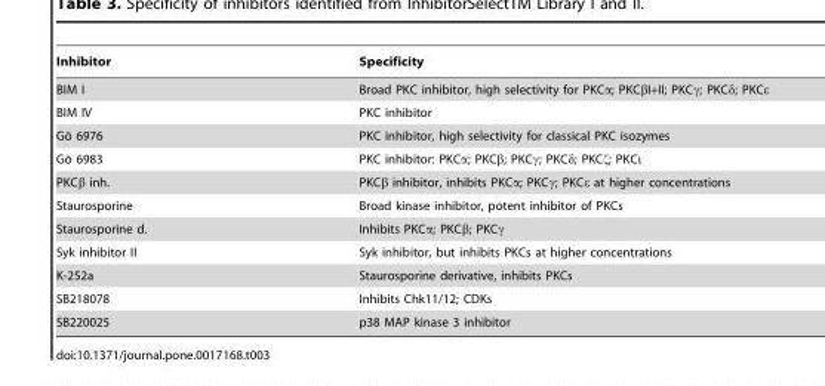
<table><thead><tr><td>Inhibitor</td><td>Specificity</td></tr></thead><tbody><tr><td>BIM I</td><td>Broad PKC inhibitor, high selectivity for PKCα; PKCβI+II; PKCγ; PKCδ; PKCε</td></tr><tr><td>BIM IV</td><td>PKC inhibitor</td></tr><tr><td>Go¨ 6976</td><td>PKC inhibitor, high selectivity for classical PKC isozymes</td></tr><tr><td>Go¨ 6983</td><td>PKC inhibitor: PKCα; PKCβ; PKCγ; PKCδ; PKCζ; PKCι</td></tr><tr><td>PKCβ inh.</td><td>PKCβ inhibitor, inhibits PKCα; PKCγ; PKCε at higher concentrations</td></tr><tr><td>Staurosporine</td><td>Broad kinase inhibitor, potent inhibitor of PKCs</td></tr><tr><td>Staurosporine d.</td><td>Inhibits PKCα; PKCβ; PKCγ</td></tr><tr><td>Syk inhibitor II</td><td>Syk inhibitor, but inhibits PKCs at higher concentrations</td></tr><tr><td>K-252a</td><td>Staurosporine derivative, inhibits PKCs</td></tr><tr><td>SB218078</td><td>Inhibits Chk11/12; CDKs</td></tr><tr><td>SB220025</td><td>p38 MAP kinase 3 inhibitor</td></tr></tbody></table>